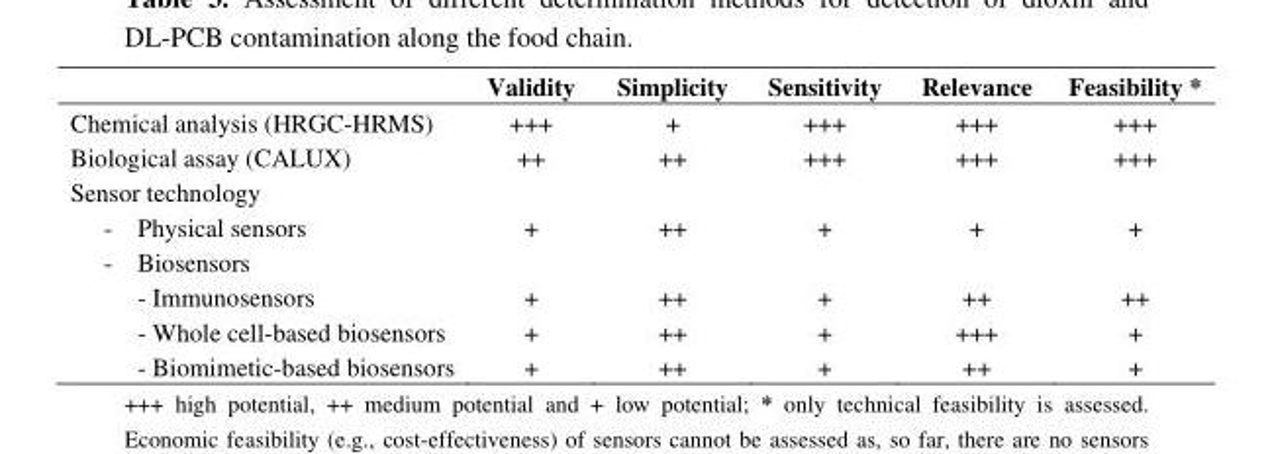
<table><thead><tr><td></td><td>Validity</td><td>Simplicity</td><td>Sensitivity</td><td>Relevance</td><td>Feasibility *</td></tr></thead><tbody><tr><td>Chemical analysis (HRGC-HRMS)</td><td>+++</td><td>+</td><td>+++</td><td>+++</td><td>+++</td></tr><tr><td>Biological assay (CALUX)</td><td>++</td><td>++</td><td>+++</td><td>+++</td><td>+++</td></tr><tr><td colspan="6">Sensor technology</td></tr><tr><td>- Physical sensors</td><td>+</td><td>++</td><td>+</td><td>+</td><td>+</td></tr><tr><td colspan="6">- Biosensors</td></tr><tr><td>- Immunosensors</td><td>+</td><td>++</td><td>+</td><td>++</td><td>++</td></tr><tr><td>- Whole cell-based biosensors</td><td>+</td><td>++</td><td>+</td><td>+++</td><td>+</td></tr><tr><td>- Biomimetic-based biosensors</td><td>+</td><td>++</td><td>+</td><td>++</td><td>+</td></tr></tbody></table>